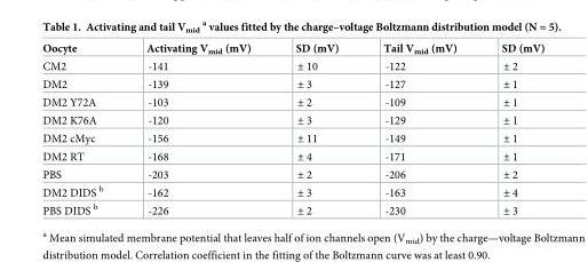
<table><thead><tr><td>Oocyte</td><td>Activating V<sub>mid</sub> (mV)</td><td>SD (mV)</td><td>Tail V<sub>mid</sub> (mV)</td><td>SD (mV)</td></tr></thead><tbody><tr><td>CM2</td><td>-141</td><td>± 10</td><td>-122</td><td>± 2</td></tr><tr><td>DM2</td><td>-139</td><td>± 3</td><td>-127</td><td>± 1</td></tr><tr><td>DM2 Y72A</td><td>-103</td><td>± 2</td><td>-109</td><td>± 1</td></tr><tr><td>DM2 K76A</td><td>-120</td><td>± 3</td><td>-129</td><td>± 1</td></tr><tr><td>DM2 cMyc</td><td>-156</td><td>± 11</td><td>-149</td><td>± 1</td></tr><tr><td>DM2 RT</td><td>-168</td><td>± 4</td><td>-171</td><td>± 1</td></tr><tr><td>PBS</td><td>-203</td><td>± 2</td><td>-206</td><td>± 2</td></tr><tr><td>DM2 DIDS <sup>b</sup></td><td>-162</td><td>± 3</td><td>-163</td><td>± 4</td></tr><tr><td>PBS DIDS <sup>b</sup></td><td>-226</td><td>± 2</td><td>-230</td><td>± 3</td></tr></tbody></table>